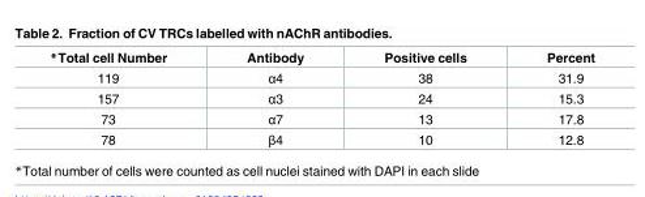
<table><thead><tr><td>*Total cell Number</td><td>Antibody</td><td>Positive cells</td><td>Percent</td></tr></thead><tbody><tr><td>119</td><td>α4</td><td>38</td><td>31.9</td></tr><tr><td>157</td><td>α3</td><td>24</td><td>15.3</td></tr><tr><td>73</td><td>α7</td><td>13</td><td>17.8</td></tr><tr><td>78</td><td>β4</td><td>10</td><td>12.8</td></tr></tbody></table>